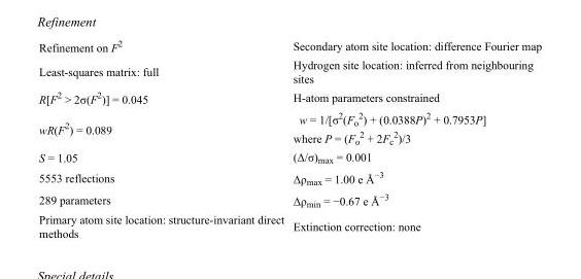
<table><tbody><tr><td>Refinement on F<sup>2</sup></td><td>Secondary atom site location: difference Fourier map</td></tr><tr><td>Least-squares matrix: full</td><td>Hydrogen site location: inferred from neighbouring sites</td></tr><tr><td>R[F<sup>2</sup> &gt; 2σ(F<sup>2</sup>)] = 0.045</td><td>H-atom parameters constrained</td></tr><tr><td>wR(F<sup>2</sup>) = 0.089</td><td>w = 1/[σ<sup>2</sup>(F<sub>o</sub> <sup>2</sup>) + (0.0388P)<sup>2</sup> + 0.7953P] where P = (F<sub>o</sub> <sup>2</sup> + 2F<sub>c</sub> <sup>2</sup>)/3</td></tr><tr><td>S = 1.05</td><td>(Δ/σ)<sub>max</sub> = 0.001</td></tr><tr><td>5553 reflections</td><td>Δρ<sub>max</sub> = 1.00 e Å<sup>−3</sup></td></tr><tr><td>289 parameters</td><td>Δρ<sub>min</sub> = −0.67 e Å<sup>−3</sup></td></tr><tr><td>Primary atom site location: structure-invariant direct methods</td><td>Extinction correction: none</td></tr></tbody></table>